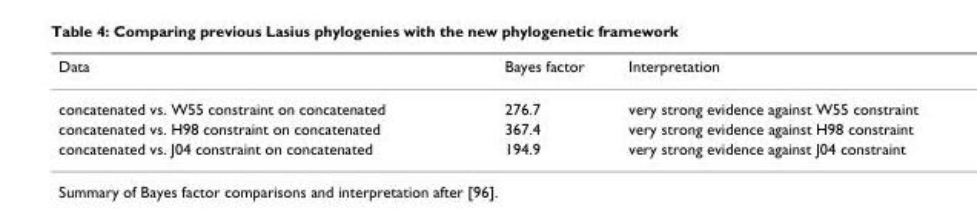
<table><thead><tr><td>Data</td><td>Bayes factor</td><td>Interpretation</td></tr></thead><tbody><tr><td>concatenated vs. W55 constraint on concatenated</td><td>276.7</td><td>very strong evidence against W55 constraint</td></tr><tr><td>concatenated vs. H98 constraint on concatenated</td><td>367.4</td><td>very strong evidence against H98 constraint</td></tr><tr><td>concatenated vs. J04 constraint on concatenated</td><td>194.9</td><td>very strong evidence against J04 constraint</td></tr></tbody></table>